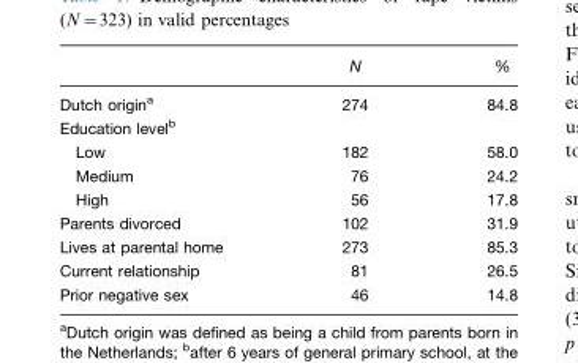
<table><thead><tr><td></td><td>N</td><td>%</td></tr></thead><tbody><tr><td>Dutch origin<sup>a</sup></td><td>274</td><td>84.8</td></tr><tr><td colspan="3">Education level<sup>b</sup></td></tr><tr><td>Low</td><td>182</td><td>58.0</td></tr><tr><td>Medium</td><td>76</td><td>24.2</td></tr><tr><td>High</td><td>56</td><td>17.8</td></tr><tr><td>Parents divorced</td><td>102</td><td>31.9</td></tr><tr><td>Lives at parental home</td><td>273</td><td>85.3</td></tr><tr><td>Current relationship</td><td>81</td><td>26.5</td></tr><tr><td>Prior negative sex</td><td>46</td><td>14.8</td></tr></tbody></table>